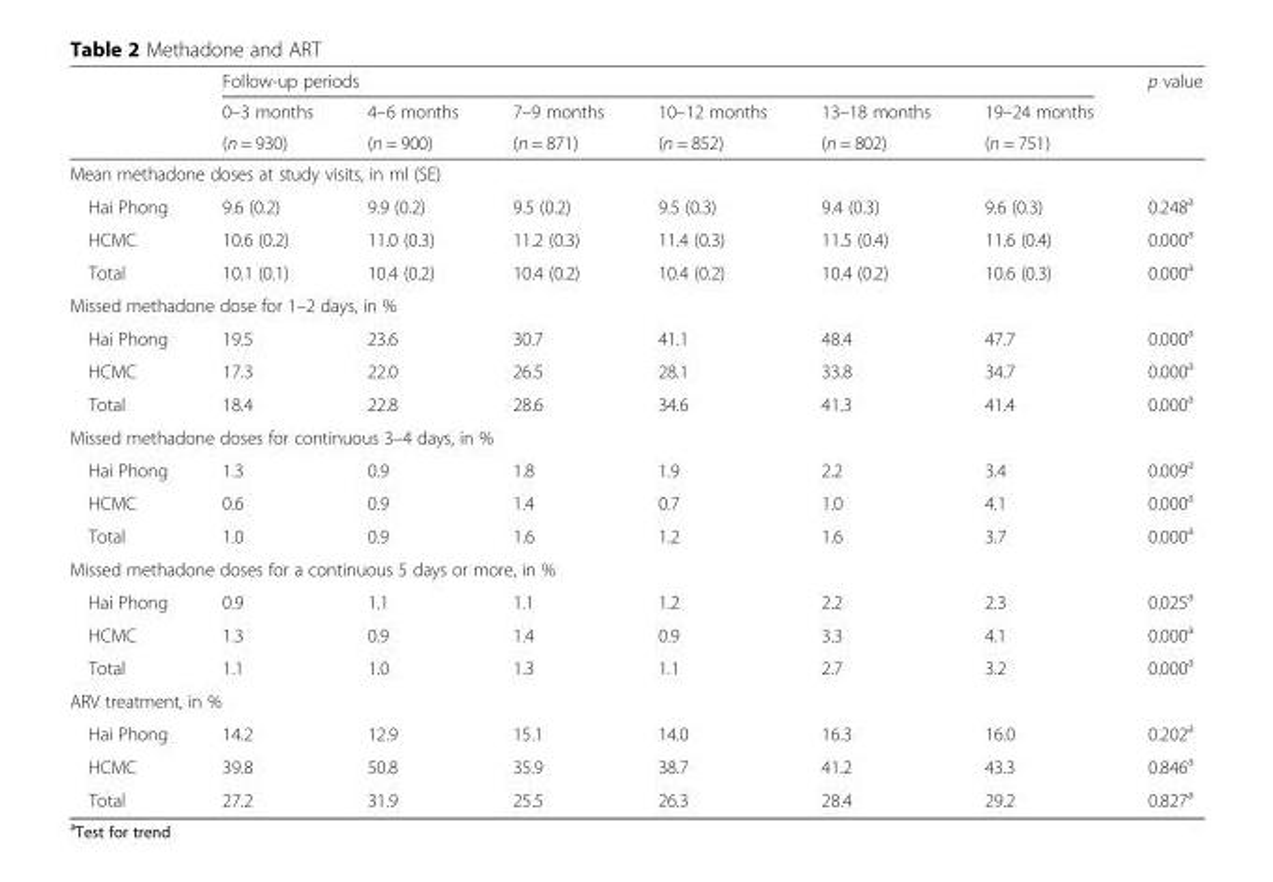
<table><thead><tr><td rowspan="3"></td><td colspan="6">Follow-up periods</td><td rowspan="3">p value</td></tr><tr><td rowspan="2">0–3 months (n = 930)</td><td rowspan="2">4–6 months (n = 900)</td><td rowspan="2">7–9 months (n = 871)</td><td rowspan="2">10–12 months (n = 852)</td><td rowspan="2">13–18 months (n = 802)</td><td rowspan="2">19–24 months (n = 751)</td></tr><tr></tr></thead><tbody><tr><td colspan="8">Mean methadone doses at study visits, in ml (SE)</td></tr><tr><td>Hai Phong</td><td>9.6 (0.2)</td><td>9.9 (0.2)</td><td>9.5 (0.2)</td><td>9.5 (0.3)</td><td>9.4 (0.3)</td><td>9.6 (0.3)</td><td>0.248<sup>a</sup></td></tr><tr><td>HCMC</td><td>10.6 (0.2)</td><td>11.0 (0.3)</td><td>11.2 (0.3)</td><td>11.4 (0.3)</td><td>11.5 (0.4)</td><td>11.6 (0.4)</td><td>0.000<sup>a</sup></td></tr><tr><td>Total</td><td>10.1 (0.1)</td><td>10.4 (0.2)</td><td>10.4 (0.2)</td><td>10.4 (0.2)</td><td>10.4 (0.2)</td><td>10.6 (0.3)</td><td>0.000<sup>a</sup></td></tr><tr><td colspan="8">Missed methadone dose for 1–2 days, in %</td></tr><tr><td>Hai Phong</td><td>19.5</td><td>23.6</td><td>30.7</td><td>41.1</td><td>48.4</td><td>47.7</td><td>0.000<sup>a</sup></td></tr><tr><td>HCMC</td><td>17.3</td><td>22.0</td><td>26.5</td><td>28.1</td><td>33.8</td><td>34.7</td><td>0.000<sup>a</sup></td></tr><tr><td>Total</td><td>18.4</td><td>22.8</td><td>28.6</td><td>34.6</td><td>41.3</td><td>41.4</td><td>0.000<sup>a</sup></td></tr><tr><td colspan="8">Missed methadone doses for continuous 3–4 days, in %</td></tr><tr><td>Hai Phong</td><td>1.3</td><td>0.9</td><td>1.8</td><td>1.9</td><td>2.2</td><td>3.4</td><td>0.009<sup>a</sup></td></tr><tr><td>HCMC</td><td>0.6</td><td>0.9</td><td>1.4</td><td>0.7</td><td>1.0</td><td>4.1</td><td>0.000<sup>a</sup></td></tr><tr><td>Total</td><td>1.0</td><td>0.9</td><td>1.6</td><td>1.2</td><td>1.6</td><td>3.7</td><td>0.000<sup>a</sup></td></tr><tr><td colspan="8">Missed methadone doses for a continuous 5 days or more, in %</td></tr><tr><td>Hai Phong</td><td>0.9</td><td>1.1</td><td>1.1</td><td>1.2</td><td>2.2</td><td>2.3</td><td>0.025<sup>a</sup></td></tr><tr><td>HCMC</td><td>1.3</td><td>0.9</td><td>1.4</td><td>0.9</td><td>3.3</td><td>4.1</td><td>0.000<sup>a</sup></td></tr><tr><td>Total</td><td>1.1</td><td>1.0</td><td>1.3</td><td>1.1</td><td>2.7</td><td>3.2</td><td>0.000<sup>a</sup></td></tr><tr><td colspan="8">ARV treatment, in %</td></tr><tr><td>Hai Phong</td><td>14.2</td><td>12.9</td><td>15.1</td><td>14.0</td><td>16.3</td><td>16.0</td><td>0.202<sup>a</sup></td></tr><tr><td>HCMC</td><td>39.8</td><td>50.8</td><td>35.9</td><td>38.7</td><td>41.2</td><td>43.3</td><td>0.846<sup>a</sup></td></tr><tr><td>Total</td><td>27.2</td><td>31.9</td><td>25.5</td><td>26.3</td><td>28.4</td><td>29.2</td><td>0.827<sup>a</sup></td></tr></tbody></table>